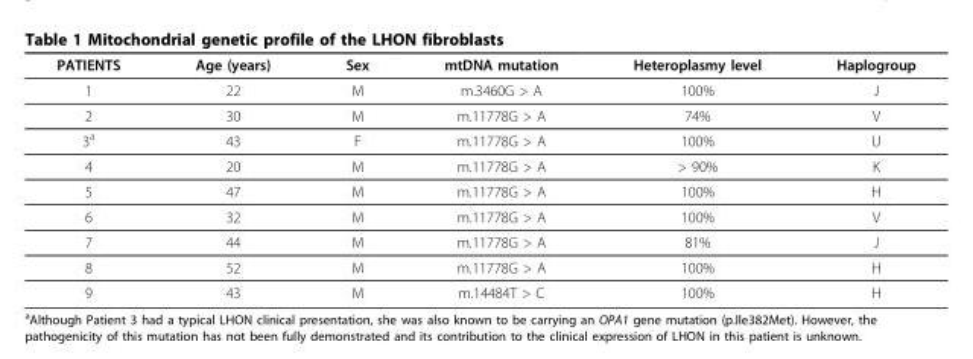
<table><thead><tr><td>PATIENTS</td><td>Age (years)</td><td>Sex</td><td>mtDNA mutation</td><td>Heteroplasmy level</td><td>Haplogroup</td></tr></thead><tbody><tr><td>1</td><td>22</td><td>M</td><td>m.3460G &gt; A</td><td>100%</td><td>J</td></tr><tr><td>2</td><td>30</td><td>M</td><td>m.11778G &gt; A</td><td>74%</td><td>V</td></tr><tr><td>3<sup>a</sup></td><td>43</td><td>F</td><td>m.11778G &gt; A</td><td>100%</td><td>U</td></tr><tr><td>4</td><td>20</td><td>M</td><td>m.11778G &gt; A</td><td>&gt; 90%</td><td>K</td></tr><tr><td>5</td><td>47</td><td>M</td><td>m.11778G &gt; A</td><td>100%</td><td>H</td></tr><tr><td>6</td><td>32</td><td>M</td><td>m.11778G &gt; A</td><td>100%</td><td>V</td></tr><tr><td>7</td><td>44</td><td>M</td><td>m.11778G &gt; A</td><td>81%</td><td>J</td></tr><tr><td>8</td><td>52</td><td>M</td><td>m.11778G &gt; A</td><td>100%</td><td>H</td></tr><tr><td>9</td><td>43</td><td>M</td><td>m.14484T &gt; C</td><td>100%</td><td>H</td></tr></tbody></table>